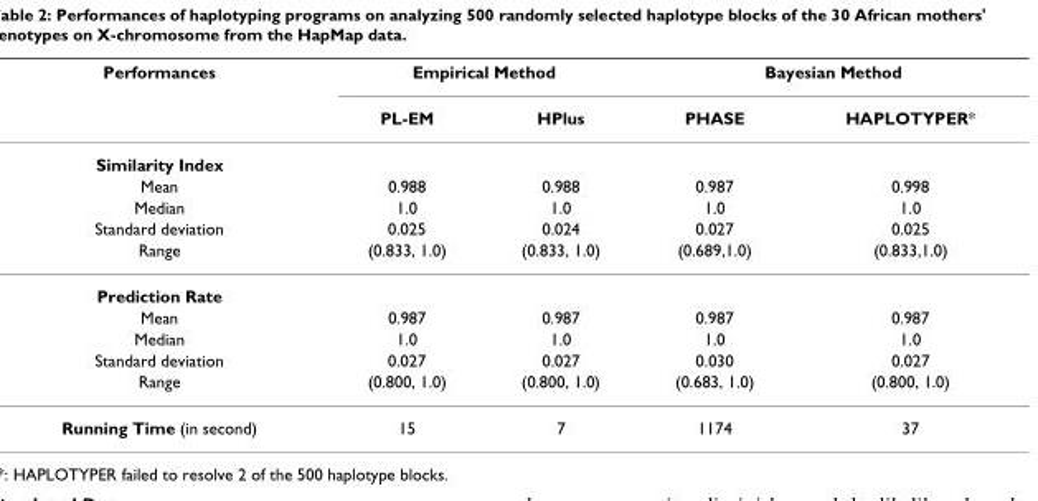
<table><thead><tr><td rowspan="2">Performances</td><td colspan="2">Empirical Method</td><td colspan="2">Bayesian Method</td></tr><tr><td>PL-EM</td><td>HPlus</td><td>PHASE</td><td>HAPLOTYPER*</td></tr></thead><tbody><tr><td colspan="5">Similarity Index</td></tr><tr><td>Mean</td><td>0.988</td><td>0.988</td><td>0.987</td><td>0.998</td></tr><tr><td>Median</td><td>1.0</td><td>1.0</td><td>1.0</td><td>1.0</td></tr><tr><td>Standard deviation</td><td>0.025</td><td>0.024</td><td>0.027</td><td>0.025</td></tr><tr><td>Range</td><td>(0.833, 1.0)</td><td>(0.833, 1.0)</td><td>(0.689,1.0)</td><td>(0.833,1.0)</td></tr><tr><td colspan="5">Prediction Rate</td></tr><tr><td>Mean</td><td>0.987</td><td>0.987</td><td>0.987</td><td>0.987</td></tr><tr><td>Median</td><td>1.0</td><td>1.0</td><td>1.0</td><td>1.0</td></tr><tr><td>Standard deviation</td><td>0.027</td><td>0.027</td><td>0.030</td><td>0.027</td></tr><tr><td>Range</td><td>(0.800, 1.0)</td><td>(0.800, 1.0)</td><td>(0.683, 1.0)</td><td>(0.800, 1.0)</td></tr><tr><td>Running Time (in second)</td><td>15</td><td>7</td><td>1174</td><td>37</td></tr></tbody></table>